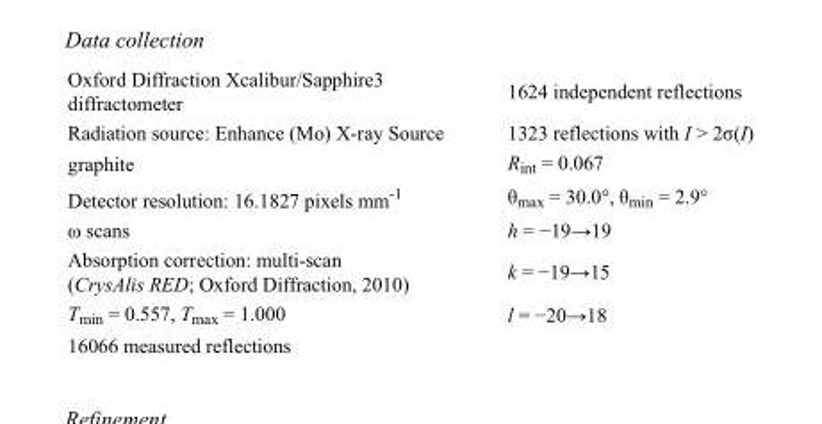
<table><tbody><tr><td>Oxford Diffraction Xcalibur/Sapphire3 diffractometer</td><td>1624 independent reflections</td></tr><tr><td>Radiation source: Enhance (Mo) X-ray Source</td><td>1323 reflections with I &gt; 2σ(I)</td></tr><tr><td>graphite</td><td>R<sub>int</sub> = 0.067</td></tr><tr><td>Detector resolution: 16.1827 pixels mm<sup>-1</sup></td><td>θ<sub>max</sub> = 30.0°, θ<sub>min</sub> = 2.9°</td></tr><tr><td>ω scans</td><td>h = −19→19</td></tr><tr><td>Absorption correction: multi-scan (CrysAlis RED; Oxford Diffraction, 2010)</td><td>k = −19→15</td></tr><tr><td>T<sub>min</sub> = 0.557, T<sub>max</sub> = 1.000</td><td>l = −20→18</td></tr><tr><td>16066 measured reflections</td><td></td></tr></tbody></table>